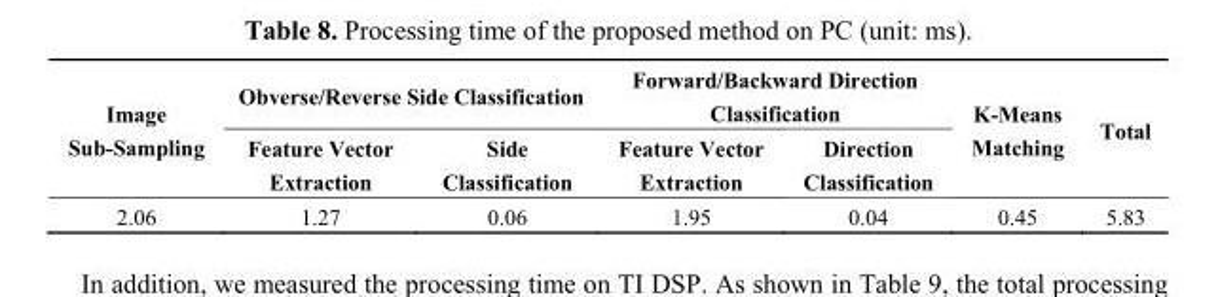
<table><thead><tr><td rowspan="2">Image Sub-Sampling</td><td colspan="2">Obverse/Reverse Side Classification</td><td colspan="2">Forward/Backward Direction Classification</td><td rowspan="2">K-Means Matching</td><td rowspan="2">Total</td></tr><tr><td>Feature Vector Extraction</td><td>Side Classification</td><td>Feature Vector Extraction</td><td>Direction Classification</td></tr></thead><tbody><tr><td>2.06</td><td>1.27</td><td>0.06</td><td>1.95</td><td>0.04</td><td>0.45</td><td>5.83</td></tr></tbody></table>